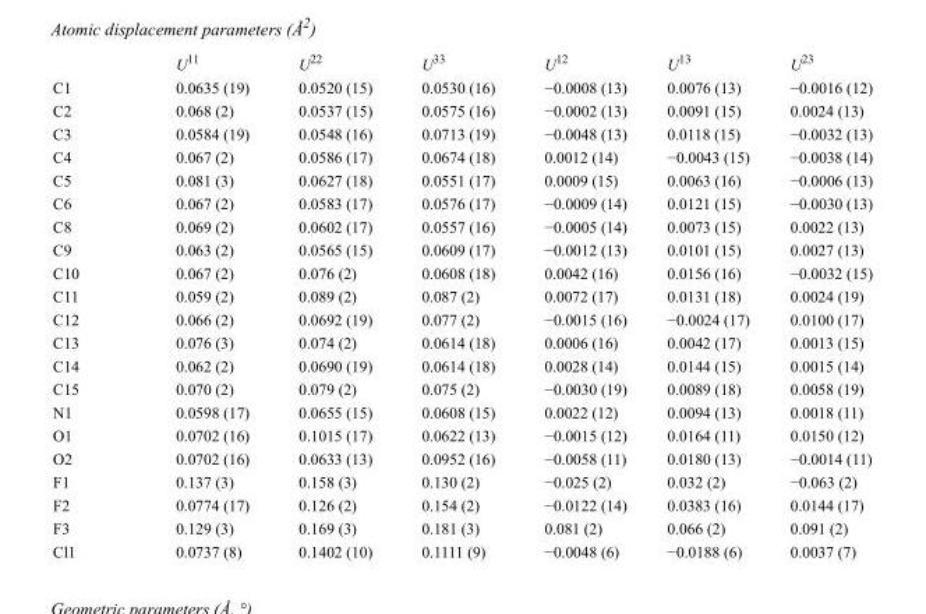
<table><thead><tr><td></td><td>U<sup>11</sup></td><td>U<sup>22</sup></td><td>U<sup>33</sup></td><td>U<sup>12</sup></td><td>U<sup>13</sup></td><td>U<sup>23</sup></td></tr></thead><tbody><tr><td>C1</td><td>0.0635 (19)</td><td>0.0520 (15)</td><td>0.0530 (16)</td><td>−0.0008 (13)</td><td>0.0076 (13)</td><td>−0.0016 (12)</td></tr><tr><td>C2</td><td>0.068 (2)</td><td>0.0537 (15)</td><td>0.0575 (16)</td><td>−0.0002 (13)</td><td>0.0091 (15)</td><td>0.0024 (13)</td></tr><tr><td>C3</td><td>0.0584 (19)</td><td>0.0548 (16)</td><td>0.0713 (19)</td><td>−0.0048 (13)</td><td>0.0118 (15)</td><td>−0.0032 (13)</td></tr><tr><td>C4</td><td>0.067 (2)</td><td>0.0586 (17)</td><td>0.0674 (18)</td><td>0.0012 (14)</td><td>−0.0043 (15)</td><td>−0.0038 (14)</td></tr><tr><td>C5</td><td>0.081 (3)</td><td>0.0627 (18)</td><td>0.0551 (17)</td><td>0.0009 (15)</td><td>0.0063 (16)</td><td>−0.0006 (13)</td></tr><tr><td>C6</td><td>0.067 (2)</td><td>0.0583 (17)</td><td>0.0576 (17)</td><td>−0.0009 (14)</td><td>0.0121 (15)</td><td>−0.0030 (13)</td></tr><tr><td>C8</td><td>0.069 (2)</td><td>0.0602 (17)</td><td>0.0557 (16)</td><td>−0.0005 (14)</td><td>0.0073 (15)</td><td>0.0022 (13)</td></tr><tr><td>C9</td><td>0.063 (2)</td><td>0.0565 (15)</td><td>0.0609 (17)</td><td>−0.0012 (13)</td><td>0.0101 (15)</td><td>0.0027 (13)</td></tr><tr><td>C10</td><td>0.067 (2)</td><td>0.076 (2)</td><td>0.0608 (18)</td><td>0.0042 (16)</td><td>0.0156 (16)</td><td>−0.0032 (15)</td></tr><tr><td>C11</td><td>0.059 (2)</td><td>0.089 (2)</td><td>0.087 (2)</td><td>0.0072 (17)</td><td>0.0131 (18)</td><td>0.0024 (19)</td></tr><tr><td>C12</td><td>0.066 (2)</td><td>0.0692 (19)</td><td>0.077 (2)</td><td>−0.0015 (16)</td><td>−0.0024 (17)</td><td>0.0100 (17)</td></tr><tr><td>C13</td><td>0.076 (3)</td><td>0.074 (2)</td><td>0.0614 (18)</td><td>0.0006 (16)</td><td>0.0042 (17)</td><td>0.0013 (15)</td></tr><tr><td>C14</td><td>0.062 (2)</td><td>0.0690 (19)</td><td>0.0614 (18)</td><td>0.0028 (14)</td><td>0.0144 (15)</td><td>0.0015 (14)</td></tr><tr><td>C15</td><td>0.070 (2)</td><td>0.079 (2)</td><td>0.075 (2)</td><td>−0.0030 (19)</td><td>0.0089 (18)</td><td>0.0058 (19)</td></tr><tr><td>N1</td><td>0.0598 (17)</td><td>0.0655 (15)</td><td>0.0608 (15)</td><td>0.0022 (12)</td><td>0.0094 (13)</td><td>0.0018 (11)</td></tr><tr><td>O1</td><td>0.0702 (16)</td><td>0.1015 (17)</td><td>0.0622 (13)</td><td>−0.0015 (12)</td><td>0.0164 (11)</td><td>0.0150 (12)</td></tr><tr><td>O2</td><td>0.0702 (16)</td><td>0.0633 (13)</td><td>0.0952 (16)</td><td>−0.0058 (11)</td><td>0.0180 (13)</td><td>−0.0014 (11)</td></tr><tr><td>F1</td><td>0.137 (3)</td><td>0.158 (3)</td><td>0.130 (2)</td><td>−0.025 (2)</td><td>0.032 (2)</td><td>−0.063 (2)</td></tr><tr><td>F2</td><td>0.0774 (17)</td><td>0.126 (2)</td><td>0.154 (2)</td><td>−0.0122 (14)</td><td>0.0383 (16)</td><td>0.0144 (17)</td></tr><tr><td>F3</td><td>0.129 (3)</td><td>0.169 (3)</td><td>0.181 (3)</td><td>0.081 (2)</td><td>0.066 (2)</td><td>0.091 (2)</td></tr><tr><td>Cl1</td><td>0.0737 (8)</td><td>0.1402 (10)</td><td>0.1111 (9)</td><td>−0.0048 (6)</td><td>−0.0188 (6)</td><td>0.0037 (7)</td></tr></tbody></table>